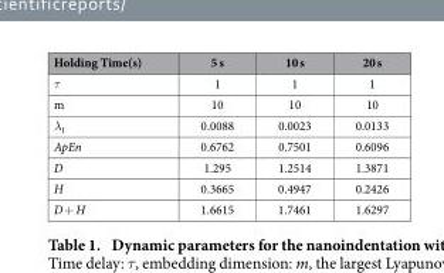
<table><thead><tr><td>Holding Time(s)</td><td>5 s</td><td>10 s</td><td>20 s</td></tr></thead><tbody><tr><td>τ</td><td>1</td><td>1</td><td>1</td></tr><tr><td>m</td><td>10</td><td>10</td><td>10</td></tr><tr><td>λ<sub>1</sub></td><td>0.0088</td><td>0.0023</td><td>0.0133</td></tr><tr><td>ApEn</td><td>0.6762</td><td>0.7501</td><td>0.6096</td></tr><tr><td>D</td><td>1.295</td><td>1.2514</td><td>1.3871</td></tr><tr><td>H</td><td>0.3665</td><td>0.4947</td><td>0.2426</td></tr><tr><td>D + H</td><td>1.6615</td><td>1.7461</td><td>1.6297</td></tr></tbody></table>